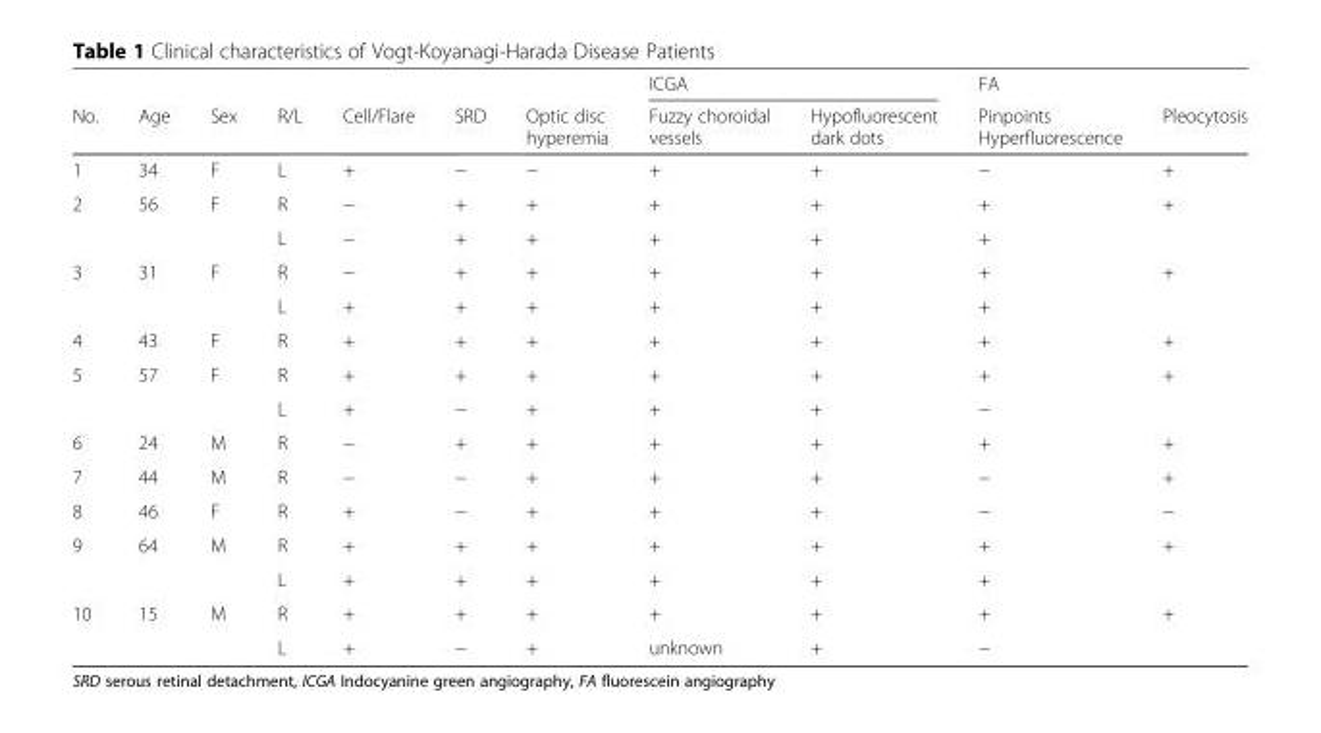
<table><thead><tr><td rowspan="2">No.</td><td rowspan="2">Age</td><td rowspan="2">Sex</td><td rowspan="2">R/L</td><td rowspan="2">Cell/Flare</td><td rowspan="2">SRD</td><td rowspan="2">Optic disc hyperemia</td><td colspan="2">ICGA</td><td rowspan="2">FA Pinpoints Hyperfluorescence</td><td rowspan="2">Pleocytosis</td></tr><tr><td>Fuzzy choroidal vessels</td><td>Hypofluorescent dark dots</td></tr></thead><tbody><tr><td>1</td><td>34</td><td>F</td><td>L</td><td>+</td><td>−</td><td>−</td><td>+</td><td>+</td><td>−</td><td>+</td></tr><tr><td rowspan="2">2</td><td rowspan="2">56</td><td rowspan="2">F</td><td>R</td><td>−</td><td>+</td><td>+</td><td>+</td><td>+</td><td>+</td><td rowspan="2">+</td></tr><tr><td>L</td><td>−</td><td>+</td><td>+</td><td>+</td><td>+</td><td>+</td></tr><tr><td rowspan="2">3</td><td rowspan="2">31</td><td rowspan="2">F</td><td>R</td><td>−</td><td>+</td><td>+</td><td>+</td><td>+</td><td>+</td><td rowspan="2">+</td></tr><tr><td>L</td><td>+</td><td>+</td><td>+</td><td>+</td><td>+</td><td>+</td></tr><tr><td>4</td><td>43</td><td>F</td><td>R</td><td>+</td><td>+</td><td>+</td><td>+</td><td>+</td><td>+</td><td>+</td></tr><tr><td rowspan="2">5</td><td rowspan="2">57</td><td rowspan="2">F</td><td>R</td><td>+</td><td>+</td><td>+</td><td>+</td><td>+</td><td>+</td><td rowspan="2">+</td></tr><tr><td>L</td><td>+</td><td>−</td><td>+</td><td>+</td><td>+</td><td>−</td></tr><tr><td>6</td><td>24</td><td>M</td><td>R</td><td>−</td><td>+</td><td>+</td><td>+</td><td>+</td><td>+</td><td>+</td></tr><tr><td>7</td><td>44</td><td>M</td><td>R</td><td>−</td><td>−</td><td>+</td><td>+</td><td>+</td><td>−</td><td>+</td></tr><tr><td>8</td><td>46</td><td>F</td><td>R</td><td>+</td><td>−</td><td>+</td><td>+</td><td>+</td><td>−</td><td>−</td></tr><tr><td rowspan="2">9</td><td rowspan="2">64</td><td rowspan="2">M</td><td>R</td><td>+</td><td>+</td><td>+</td><td>+</td><td>+</td><td>+</td><td rowspan="2">+</td></tr><tr><td>L</td><td>+</td><td>+</td><td>+</td><td>+</td><td>+</td><td>+</td></tr><tr><td rowspan="2">10</td><td rowspan="2">15</td><td rowspan="2">M</td><td>R</td><td>+</td><td>+</td><td>+</td><td>+</td><td>+</td><td>+</td><td rowspan="2">+</td></tr><tr><td>L</td><td>+</td><td>−</td><td>+</td><td>unknown</td><td>+</td><td>−</td></tr></tbody></table>